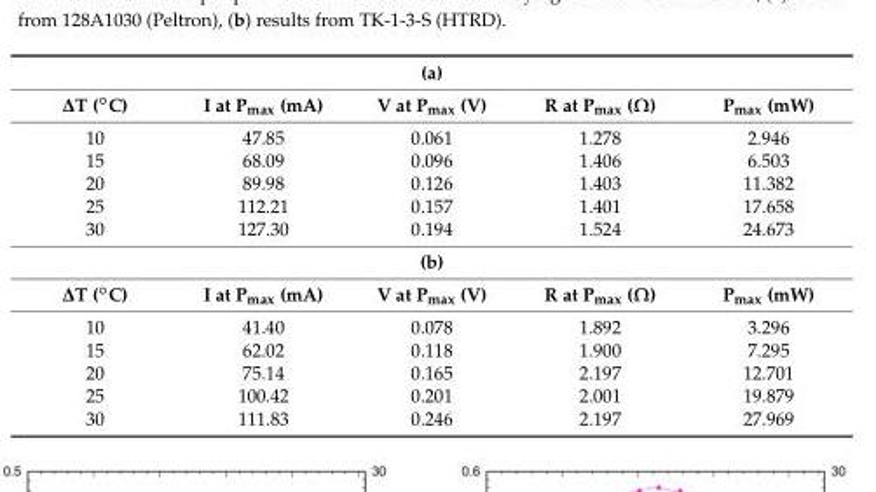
<table><tbody><tr><td colspan="5">(a)</td></tr><tr><td>∆T (◦C)</td><td>I at P<sub>max</sub> (mA)</td><td>V at P<sub>max</sub> (V)</td><td>R at P<sub>max</sub> (Ω)</td><td>P<sub>max</sub> (mW)</td></tr><tr><td>10</td><td>47.85</td><td>0.061</td><td>1.278</td><td>2.946</td></tr><tr><td>15</td><td>68.09</td><td>0.096</td><td>1.406</td><td>6.503</td></tr><tr><td>20</td><td>89.98</td><td>0.126</td><td>1.403</td><td>11.382</td></tr><tr><td>25</td><td>112.21</td><td>0.157</td><td>1.401</td><td>17.658</td></tr><tr><td>30</td><td>127.30</td><td>0.194</td><td>1.524</td><td>24.673</td></tr><tr><td colspan="5">(b)</td></tr><tr><td>∆T (◦C)</td><td>I at P<sub>max</sub> (mA)</td><td>V at P<sub>max</sub> (V)</td><td>R at P<sub>max</sub> (Ω)</td><td>P<sub>max</sub> (mW)</td></tr><tr><td>10</td><td>41.40</td><td>0.078</td><td>1.892</td><td>3.296</td></tr><tr><td>15</td><td>62.02</td><td>0.118</td><td>1.900</td><td>7.295</td></tr><tr><td>20</td><td>75.14</td><td>0.165</td><td>2.197</td><td>12.701</td></tr><tr><td>25</td><td>100.42</td><td>0.201</td><td>2.001</td><td>19.879</td></tr><tr><td>30</td><td>111.83</td><td>0.246</td><td>2.197</td><td>27.969</td></tr></tbody></table>